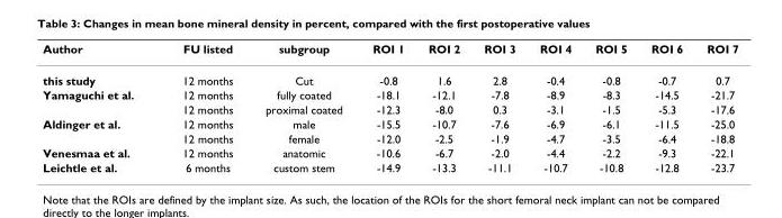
<table><thead><tr><td>Author</td><td>FU listed</td><td>subgroup</td><td>ROI 1</td><td>ROI 2</td><td>ROI 3</td><td>ROI 4</td><td>ROI 5</td><td>ROI 6</td><td>ROI 7</td></tr></thead><tbody><tr><td>this study</td><td>12 months</td><td>Cut</td><td>-0.8</td><td>1.6</td><td>2.8</td><td>-0.4</td><td>-0.8</td><td>-0.7</td><td>0.7</td></tr><tr><td rowspan="2">Yamaguchi et al.</td><td>12 months</td><td>fully coated</td><td>-18.1</td><td>-12.1</td><td>-7.8</td><td>-8.9</td><td>-8.3</td><td>-14.5</td><td>-21.7</td></tr><tr><td>12 months</td><td>proximal coated</td><td>-12.3</td><td>-8.0</td><td>0.3</td><td>-3.1</td><td>-1.5</td><td>-5.3</td><td>-17.6</td></tr><tr><td rowspan="2">Aldinger et al.</td><td>12 months</td><td>male</td><td>-15.5</td><td>-10.7</td><td>-7.6</td><td>-6.9</td><td>-6.1</td><td>-11.5</td><td>-25.0</td></tr><tr><td>12 months</td><td>female</td><td>-12.0</td><td>-2.5</td><td>-1.9</td><td>-4.7</td><td>-3.5</td><td>-6.4</td><td>-18.8</td></tr><tr><td>Venesmaa et al.</td><td>12 months</td><td>anatomic</td><td>-10.6</td><td>-6.7</td><td>-2.0</td><td>-4.4</td><td>-2.2</td><td>-9.3</td><td>-22.1</td></tr><tr><td>Leichtle et al.</td><td>6 months</td><td>custom stem</td><td>-14.9</td><td>-13.3</td><td>-11.1</td><td>-10.7</td><td>-10.8</td><td>-12.8</td><td>-23.7</td></tr></tbody></table>